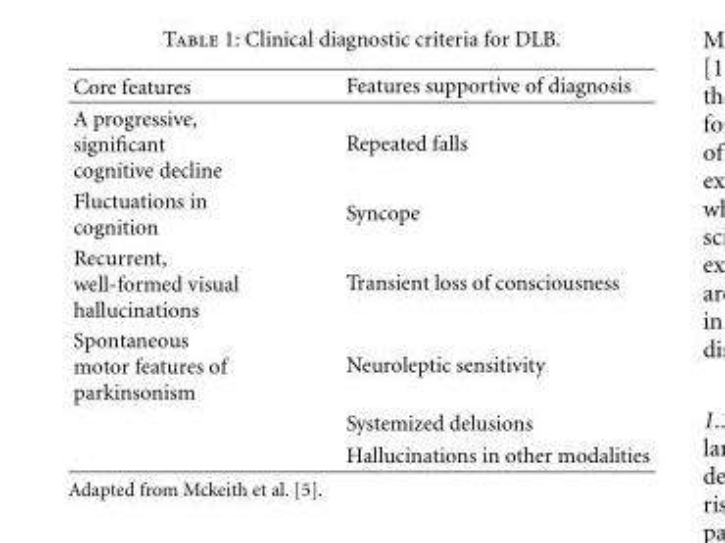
<table><thead><tr><td>Core features</td><td>Features supportive of diagnosis</td></tr></thead><tbody><tr><td>A progressive, significant cognitive decline</td><td>Repeated falls</td></tr><tr><td>Fluctuations in cognition</td><td>Syncope</td></tr><tr><td>Recurrent, well-formed visual hallucinations</td><td>Transient loss of consciousness</td></tr><tr><td rowspan="3">Spontaneous motor features of parkinsonism</td><td>Neuroleptic sensitivity</td></tr><tr><td>Systemized delusions</td></tr><tr><td>Hallucinations in other modalities</td></tr></tbody></table>